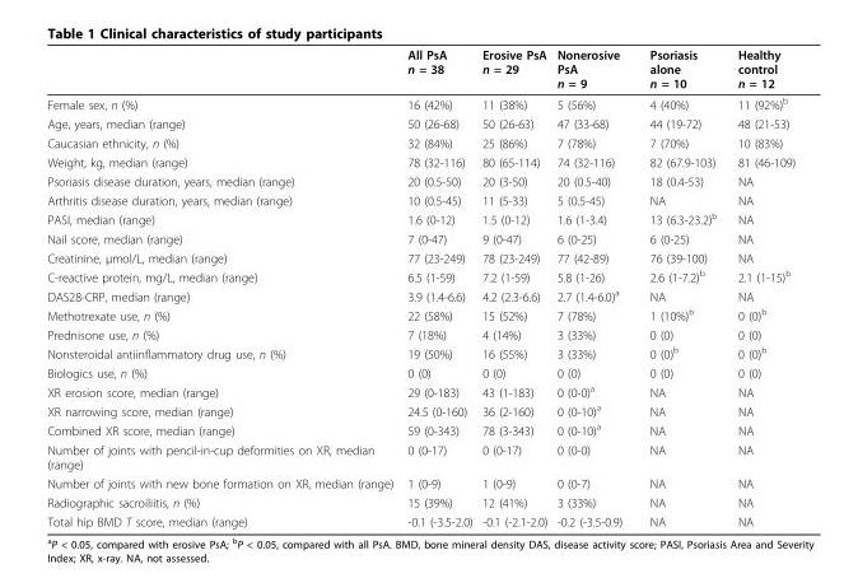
<table><thead><tr><td></td><td>All PsA n = 38</td><td>Erosive PsA n = 29</td><td>Nonerosive PsA n = 9</td><td>Psoriasis alone n = 10</td><td>Healthy control n = 12</td></tr></thead><tbody><tr><td>Female sex, n (%)</td><td>16 (42%)</td><td>11 (38%)</td><td>5 (56%)</td><td>4 (40%)</td><td>11 (92%)<sup>b</sup></td></tr><tr><td>Age, years, median (range)</td><td>50 (26-68)</td><td>50 (26-63)</td><td>47 (33-68)</td><td>44 (19-72)</td><td>48 (21-53)</td></tr><tr><td>Caucasian ethnicity, n (%)</td><td>32 (84%)</td><td>25 (86%)</td><td>7 (78%)</td><td>7 (70%)</td><td>10 (83%)</td></tr><tr><td>Weight, kg, median (range)</td><td>78 (32-116)</td><td>80 (65-114)</td><td>74 (32-116)</td><td>82 (67.9-103)</td><td>81 (46-109)</td></tr><tr><td>Psoriasis disease duration, years, median (range)</td><td>20 (0.5-50)</td><td>20 (3-50)</td><td>20 (0.5-40)</td><td>18 (0.4-53)</td><td>NA</td></tr><tr><td>Arthritis disease duration, years, median (range)</td><td>10 (0.5-45)</td><td>11 (5-33)</td><td>5 (0.5-45)</td><td>NA</td><td>NA</td></tr><tr><td>PASI, median (range)</td><td>1.6 (0-12)</td><td>1.5 (0-12)</td><td>1.6 (1-3.4)</td><td>13 (6.3-23.2)<sup>b</sup></td><td>NA</td></tr><tr><td>Nail score, median (range)</td><td>7 (0-47)</td><td>9 (0-47)</td><td>6 (0-25)</td><td>6 (0-25)</td><td>NA</td></tr><tr><td>Creatinine, μmol/L, median (range)</td><td>77 (23-249)</td><td>78 (23-249)</td><td>77 (42-89)</td><td>76 (39-100)</td><td>NA</td></tr><tr><td>C-reactive protein, mg/L, median (range)</td><td>6.5 (1-59)</td><td>7.2 (1-59)</td><td>5.8 (1-26)</td><td>2.6 (1-7.2)<sup>b</sup></td><td>2.1 (1-15)<sup>b</sup></td></tr><tr><td>DAS28-CRP, median (range)</td><td>3.9 (1.4-6.6)</td><td>4.2 (2.3-6.6)</td><td>2.7 (1.4-6.0)<sup>a</sup></td><td>NA</td><td>NA</td></tr><tr><td>Methotrexate use, n (%)</td><td>22 (58%)</td><td>15 (52%)</td><td>7 (78%)</td><td>1 (10%)<sup>b</sup></td><td>0 (0)<sup>b</sup></td></tr><tr><td>Prednisone use, n (%)</td><td>7 (18%)</td><td>4 (14%)</td><td>3 (33%)</td><td>0 (0)</td><td>0 (0)</td></tr><tr><td>Nonsteroidal antiinflammatory drug use, n (%)</td><td>19 (50%)</td><td>16 (55%)</td><td>3 (33%)</td><td>0 (0)<sup>b</sup></td><td>0 (0)<sup>b</sup></td></tr><tr><td>Biologics use, n (%)</td><td>0 (0)</td><td>0 (0)</td><td>0 (0)</td><td>0 (0)</td><td>0 (0)</td></tr><tr><td>XR erosion score, median (range)</td><td>29 (0-183)</td><td>43 (1-183)</td><td>0 (0-0)<sup>a</sup></td><td>NA</td><td>NA</td></tr><tr><td>XR narrowing score, median (range)</td><td>24.5 (0-160)</td><td>36 (2-160)</td><td>0 (0-10)<sup>a</sup></td><td>NA</td><td>NA</td></tr><tr><td>Combined XR score, median (range)</td><td>59 (0-343)</td><td>78 (3-343)</td><td>0 (0-10)<sup>a</sup></td><td>NA</td><td>NA</td></tr><tr><td>Number of joints with pencil-in-cup deformities on XR, median (range)</td><td>0 (0-17)</td><td>0 (0-17)</td><td>0 (0-0)</td><td>NA</td><td>NA</td></tr><tr><td>Number of joints with new bone formation on XR, median (range)</td><td>1 (0-9)</td><td>1 (0-9)</td><td>0 (0-7)</td><td>NA</td><td>NA</td></tr><tr><td>Radiographic sacroiliitis, n (%)</td><td>15 (39%)</td><td>12 (41%)</td><td>3 (33%)</td><td>NA</td><td>NA</td></tr><tr><td>Total hip BMD T score, median (range)</td><td>-0.1 (-3.5-2.0)</td><td>-0.1 (-2.1-2.0)</td><td>-0.2 (-3.5-0.9)</td><td>NA</td><td>NA</td></tr></tbody></table>